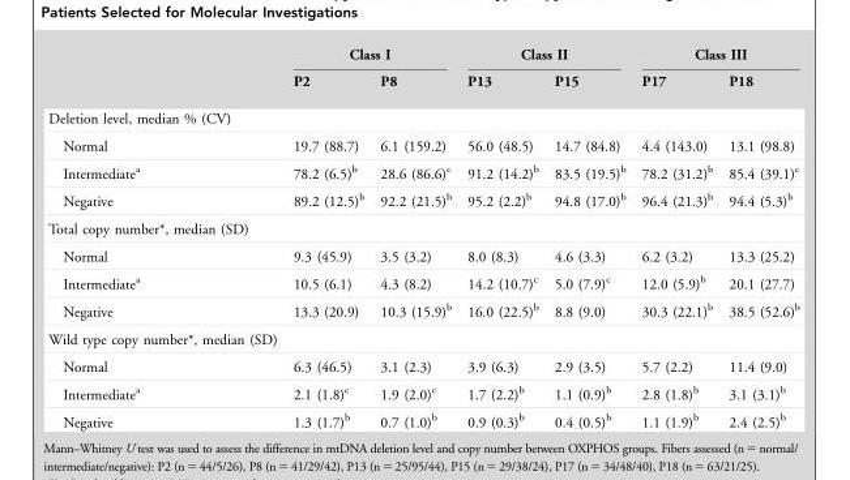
<table><thead><tr><td rowspan="2"></td><td colspan="2">Class I</td><td colspan="2">Class II</td><td colspan="2">Class III</td></tr><tr><td>P2</td><td>P8</td><td>P13</td><td>P15</td><td>P17</td><td>P18</td></tr></thead><tbody><tr><td colspan="7">Deletion level, median % (CV)</td></tr><tr><td>Normal</td><td>19.7 (88.7)</td><td>6.1 (159.2)</td><td>56.0 (48.5)</td><td>14.7 (84.8)</td><td>4.4 (143.0)</td><td>13.1 (98.8)</td></tr><tr><td>Intermediate<sup>a</sup></td><td>78.2 (6.5)<sup>b</sup></td><td>28.6 (86.6)<sup>c</sup></td><td>91.2 (14.2)<sup>b</sup></td><td>83.5 (19.5)<sup>b</sup></td><td>78.2 (31.2)<sup>b</sup></td><td>85.4 (39.1)<sup>c</sup></td></tr><tr><td>Negative</td><td>89.2 (12.5)<sup>b</sup></td><td>92.2 (21.5)<sup>b</sup></td><td>95.2 (2.2)<sup>b</sup></td><td>94.8 (17.0)<sup>b</sup></td><td>96.4 (21.3)<sup>b</sup></td><td>94.4 (5.3)<sup>b</sup></td></tr><tr><td colspan="7">Total copy number*, median (SD)</td></tr><tr><td>Normal</td><td>9.3 (45.9)</td><td>3.5 (3.2)</td><td>8.0 (8.3)</td><td>4.6 (3.3)</td><td>6.2 (3.2)</td><td>13.3 (25.2)</td></tr><tr><td>Intermediate<sup>a</sup></td><td>10.5 (6.1)</td><td>4.3 (8.2)</td><td>14.2 (10.7)<sup>c</sup></td><td>5.0 (7.9)<sup>c</sup></td><td>12.0 (5.9)<sup>b</sup></td><td>20.1 (27.7)</td></tr><tr><td>Negative</td><td>13.3 (20.9)</td><td>10.3 (15.9)<sup>b</sup></td><td>16.0 (22.5)<sup>b</sup></td><td>8.8 (9.0)</td><td>30.3 (22.1)<sup>b</sup></td><td>38.5 (52.6)<sup>b</sup></td></tr><tr><td colspan="7">Wild type copy number*, median (SD)</td></tr><tr><td>Normal</td><td>6.3 (46.5)</td><td>3.1 (2.3)</td><td>3.9 (6.3)</td><td>2.9 (3.5)</td><td>5.7 (2.2)</td><td>11.4 (9.0)</td></tr><tr><td>Intermediate<sup>a</sup></td><td>2.1 (1.8)<sup>c</sup></td><td>1.9 (2.0)<sup>c</sup></td><td>1.7 (2.2)<sup>b</sup></td><td>1.1 (0.9)<sup>b</sup></td><td>2.8 (1.8)<sup>b</sup></td><td>3.1 (3.1)<sup>b</sup></td></tr><tr><td>Negative</td><td>1.3 (1.7)<sup>b</sup></td><td>0.7 (1.0)<sup>b</sup></td><td>0.9 (0.3)<sup>b</sup></td><td>0.4 (0.5)<sup>b</sup></td><td>1.1 (1.9)<sup>b</sup></td><td>2.4 (2.5)<sup>b</sup></td></tr></tbody></table>